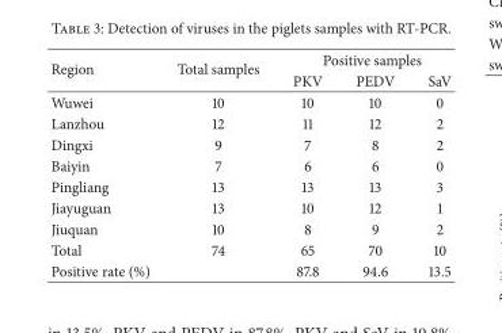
<table><thead><tr><td rowspan="2">Region</td><td rowspan="2">Total samples</td><td colspan="3">Positive samples</td></tr><tr><td>PKV</td><td>PEDV</td><td>SaV</td></tr></thead><tbody><tr><td>Wuwei</td><td>10</td><td>10</td><td>10</td><td>0</td></tr><tr><td>Lanzhou</td><td>12</td><td>11</td><td>12</td><td>2</td></tr><tr><td>Dingxi</td><td>9</td><td>7</td><td>8</td><td>2</td></tr><tr><td>Baiyin</td><td>7</td><td>6</td><td>6</td><td>0</td></tr><tr><td>Pingliang</td><td>13</td><td>13</td><td>13</td><td>3</td></tr><tr><td>Jiayuguan</td><td>13</td><td>10</td><td>12</td><td>1</td></tr><tr><td>Jiuquan</td><td>10</td><td>8</td><td>9</td><td>2</td></tr><tr><td>Total</td><td>74</td><td>65</td><td>70</td><td>10</td></tr><tr><td>Positive rate (%)</td><td></td><td>87.8</td><td>94.6</td><td>13.5</td></tr></tbody></table>